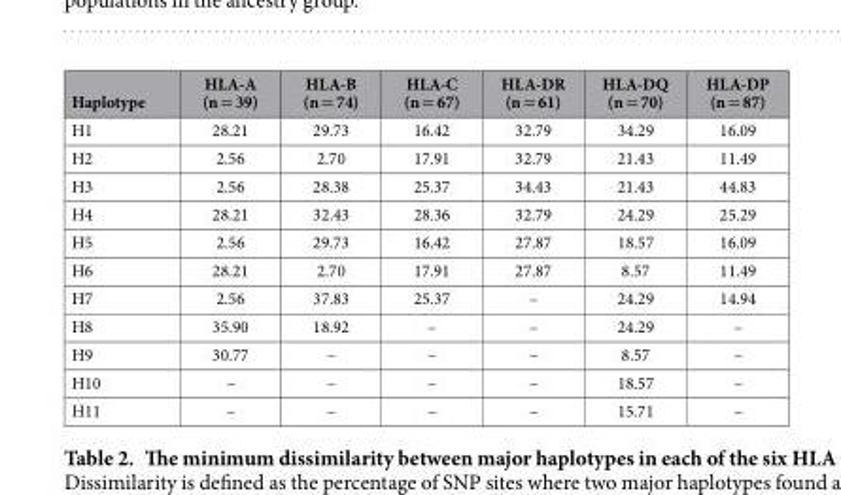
<table><thead><tr><td>Haplotype</td><td>HLA-A (n = 39)</td><td>HLA-B (n = 74)</td><td>HLA-C (n = 67)</td><td>HLA-DR (n = 61)</td><td>HLA-DQ (n = 70)</td><td>HLA-DP (n = 87)</td></tr></thead><tbody><tr><td>H1</td><td>28.21</td><td>29.73</td><td>16.42</td><td>32.79</td><td>34.29</td><td>16.09</td></tr><tr><td>H2</td><td>2.56</td><td>2.70</td><td>17.91</td><td>32.79</td><td>21.43</td><td>11.49</td></tr><tr><td>H3</td><td>2.56</td><td>28.38</td><td>25.37</td><td>34.43</td><td>21.43</td><td>44.83</td></tr><tr><td>H4</td><td>28.21</td><td>32.43</td><td>28.36</td><td>32.79</td><td>24.29</td><td>25.29</td></tr><tr><td>H5</td><td>2.56</td><td>29.73</td><td>16.42</td><td>27.87</td><td>18.57</td><td>16.09</td></tr><tr><td>H6</td><td>28.21</td><td>2.70</td><td>17.91</td><td>27.87</td><td>8.57</td><td>11.49</td></tr><tr><td>H7</td><td>2.56</td><td>37.83</td><td>25.37</td><td>–</td><td>24.29</td><td>14.94</td></tr><tr><td>H8</td><td>35.90</td><td>18.92</td><td>–</td><td>–</td><td>24.29</td><td>–</td></tr><tr><td>H9</td><td>30.77</td><td>–</td><td>–</td><td>–</td><td>8.57</td><td>–</td></tr><tr><td>H10</td><td>–</td><td>–</td><td>–</td><td>–</td><td>18.57</td><td>–</td></tr><tr><td>H11</td><td>–</td><td>–</td><td>–</td><td>–</td><td>15.71</td><td>–</td></tr></tbody></table>